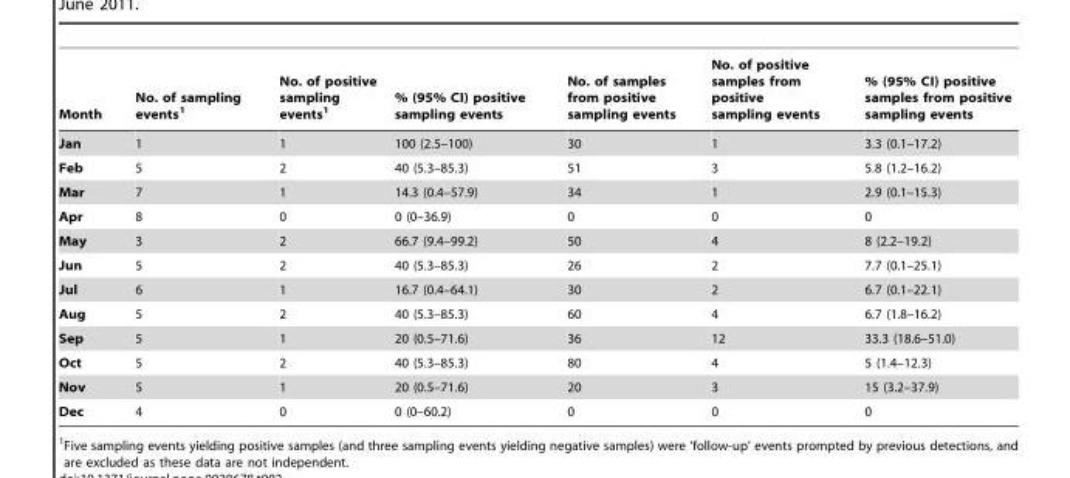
<table><thead><tr><td>Month</td><td>No. of sampling events<sup>1</sup></td><td>No. of positive sampling events<sup>1</sup></td><td>% (95% CI) positive sampling events</td><td>No. of samples from positive sampling events</td><td>No. of positive samples from positive sampling events</td><td>% (95% CI) positive samples from positive sampling events</td></tr></thead><tbody><tr><td>Jan</td><td>1</td><td>1</td><td>100 (2.5–100)</td><td>30</td><td>1</td><td>3.3 (0.1–17.2)</td></tr><tr><td>Feb</td><td>5</td><td>2</td><td>40 (5.3–85.3)</td><td>51</td><td>3</td><td>5.8 (1.2–16.2)</td></tr><tr><td>Mar</td><td>7</td><td>1</td><td>14.3 (0.4–57.9)</td><td>34</td><td>1</td><td>2.9 (0.1–15.3)</td></tr><tr><td>Apr</td><td>8</td><td>0</td><td>0 (0–36.9)</td><td>0</td><td>0</td><td>0</td></tr><tr><td>May</td><td>3</td><td>2</td><td>66.7 (9.4–99.2)</td><td>50</td><td>4</td><td>8 (2.2–19.2)</td></tr><tr><td>Jun</td><td>5</td><td>2</td><td>40 (5.3–85.3)</td><td>26</td><td>2</td><td>7.7 (0.1–25.1)</td></tr><tr><td>Jul</td><td>6</td><td>1</td><td>16.7 (0.4–64.1)</td><td>30</td><td>2</td><td>6.7 (0.1–22.1)</td></tr><tr><td>Aug</td><td>5</td><td>2</td><td>40 (5.3–85.3)</td><td>60</td><td>4</td><td>6.7 (1.8–16.2)</td></tr><tr><td>Sep</td><td>5</td><td>1</td><td>20 (0.5–71.6)</td><td>36</td><td>12</td><td>33.3 (18.6–51.0)</td></tr><tr><td>Oct</td><td>5</td><td>2</td><td>40 (5.3–85.3)</td><td>80</td><td>4</td><td>5 (1.4–12.3)</td></tr><tr><td>Nov</td><td>5</td><td>1</td><td>20 (0.5–71.6)</td><td>20</td><td>3</td><td>15 (3.2–37.9)</td></tr><tr><td>Dec</td><td>4</td><td>0</td><td>0 (0–60.2)</td><td>0</td><td>0</td><td>0</td></tr></tbody></table>